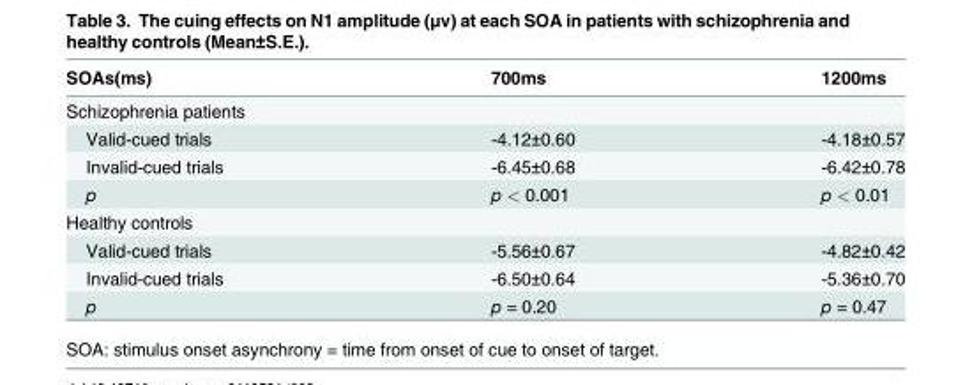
<table><thead><tr><td>SOAs(ms)</td><td>700ms</td><td>1200ms</td></tr></thead><tbody><tr><td colspan="3">Schizophrenia patients</td></tr><tr><td>Valid-cued trials</td><td>-4.12±0.60</td><td>-4.18±0.57</td></tr><tr><td>Invalid-cued trials</td><td>-6.45±0.68</td><td>-6.42±0.78</td></tr><tr><td>p</td><td>p &lt; 0.001</td><td>p &lt; 0.01</td></tr><tr><td colspan="3">Healthy controls</td></tr><tr><td>Valid-cued trials</td><td>-5.56±0.67</td><td>-4.82±0.42</td></tr><tr><td>Invalid-cued trials</td><td>-6.50±0.64</td><td>-5.36±0.70</td></tr><tr><td>p</td><td>p = 0.20</td><td>p = 0.47</td></tr></tbody></table>